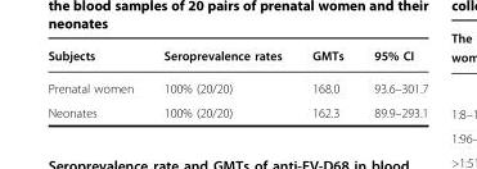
<table><thead><tr><td>Subjects</td><td>Seroprevalence rates</td><td>GMTs</td><td>95% CI</td></tr></thead><tbody><tr><td>Prenatal women</td><td>100% (20/20)</td><td>168.0</td><td>93.6–301.7</td></tr><tr><td>Neonates</td><td>100% (20/20)</td><td>162.3</td><td>89.9–293.1</td></tr></tbody></table>